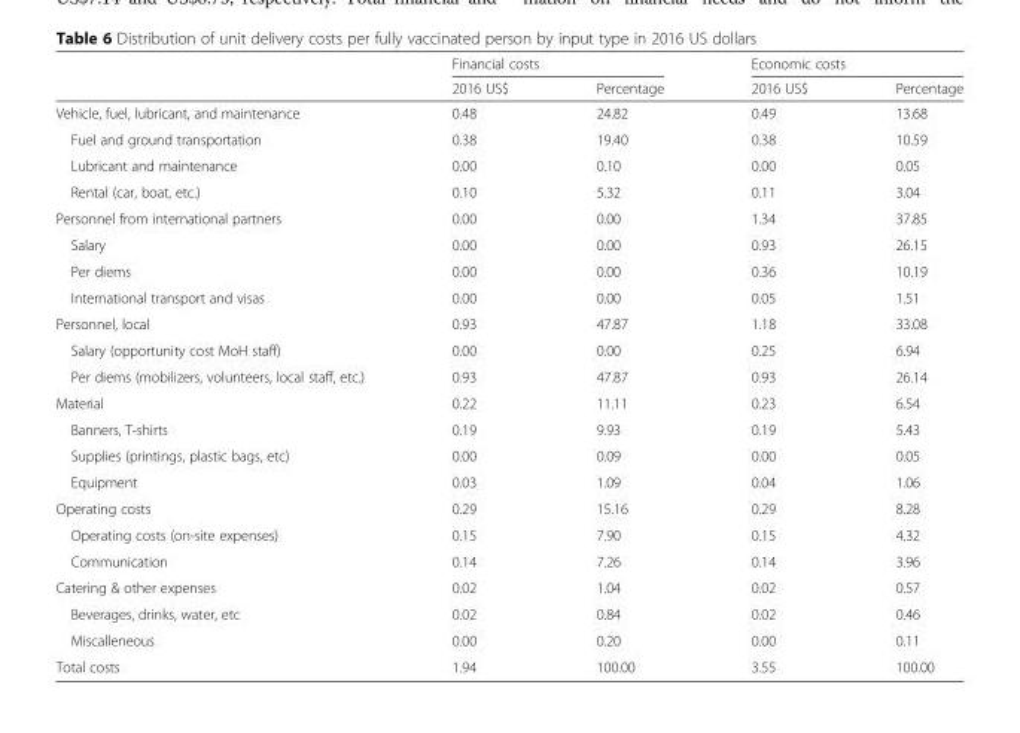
<table><thead><tr><td rowspan="2"></td><td colspan="2">Financial costs</td><td colspan="2">Economic costs</td></tr><tr><td>2016 US$</td><td>Percentage</td><td>2016 US$</td><td>Percentage</td></tr></thead><tbody><tr><td>Vehicle, fuel, lubricant, and maintenance</td><td>0.48</td><td>24.82</td><td>0.49</td><td>13.68</td></tr><tr><td>Fuel and ground transportation</td><td>0.38</td><td>19.40</td><td>0.38</td><td>10.59</td></tr><tr><td>Lubricant and maintenance</td><td>0.00</td><td>0.10</td><td>0.00</td><td>0.05</td></tr><tr><td>Rental (car, boat, etc.)</td><td>0.10</td><td>5.32</td><td>0.11</td><td>3.04</td></tr><tr><td>Personnel from international partners</td><td>0.00</td><td>0.00</td><td>1.34</td><td>37.85</td></tr><tr><td>Salary</td><td>0.00</td><td>0.00</td><td>0.93</td><td>26.15</td></tr><tr><td>Per diems</td><td>0.00</td><td>0.00</td><td>0.36</td><td>10.19</td></tr><tr><td>International transport and visas</td><td>0.00</td><td>0.00</td><td>0.05</td><td>1.51</td></tr><tr><td>Personnel, local</td><td>0.93</td><td>47.87</td><td>1.18</td><td>33.08</td></tr><tr><td>Salary (opportunity cost MoH staff)</td><td>0.00</td><td>0.00</td><td>0.25</td><td>6.94</td></tr><tr><td>Per diems (mobilizers, volunteers, local staff, etc.)</td><td>0.93</td><td>47.87</td><td>0.93</td><td>26.14</td></tr><tr><td>Material</td><td>0.22</td><td>11.11</td><td>0.23</td><td>6.54</td></tr><tr><td>Banners, T-shirts</td><td>0.19</td><td>9.93</td><td>0.19</td><td>5.43</td></tr><tr><td>Supplies (printings, plastic bags, etc)</td><td>0.00</td><td>0.09</td><td>0.00</td><td>0.05</td></tr><tr><td>Equipment</td><td>0.03</td><td>1.09</td><td>0.04</td><td>1.06</td></tr><tr><td>Operating costs</td><td>0.29</td><td>15.16</td><td>0.29</td><td>8.28</td></tr><tr><td>Operating costs (on-site expenses)</td><td>0.15</td><td>7.90</td><td>0.15</td><td>4.32</td></tr><tr><td>Communication</td><td>0.14</td><td>7.26</td><td>0.14</td><td>3.96</td></tr><tr><td>Catering &amp; other expenses</td><td>0.02</td><td>1.04</td><td>0.02</td><td>0.57</td></tr><tr><td>Beverages, drinks, water, etc</td><td>0.02</td><td>0.84</td><td>0.02</td><td>0.46</td></tr><tr><td>Miscalleneous</td><td>0.00</td><td>0.20</td><td>0.00</td><td>0.11</td></tr><tr><td>Total costs</td><td>1.94</td><td>100.00</td><td>3.55</td><td>100.00</td></tr></tbody></table>